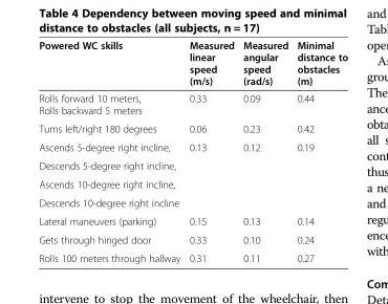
<table><thead><tr><td>Powered WC skills</td><td>Measured linear speed (m/s)</td><td>Measured angular speed (rad/s)</td><td>Minimal distance to obstacles (m)</td></tr></thead><tbody><tr><td>Rolls forward 10 meters, Rolls backward 5 meters</td><td>0.33</td><td>0.09</td><td>0.44</td></tr><tr><td>Turns left/right 180 degrees</td><td>0.06</td><td>0.23</td><td>0.42</td></tr><tr><td>Ascends 5-degree right incline,</td><td rowspan="4">0.13</td><td rowspan="4">0.12</td><td rowspan="4">0.19</td></tr><tr><td>Descends 5-degree right incline,</td></tr><tr><td>Ascends 10-degree right incline,</td></tr><tr><td>Descends 10-degree right incline</td></tr><tr><td>Lateral maneuvers (parking)</td><td>0.15</td><td>0.13</td><td>0.14</td></tr><tr><td>Gets through hinged door</td><td>0.33</td><td>0.10</td><td>0.24</td></tr><tr><td>Rolls 100 meters through hallway</td><td>0.31</td><td>0.11</td><td>0.27</td></tr></tbody></table>